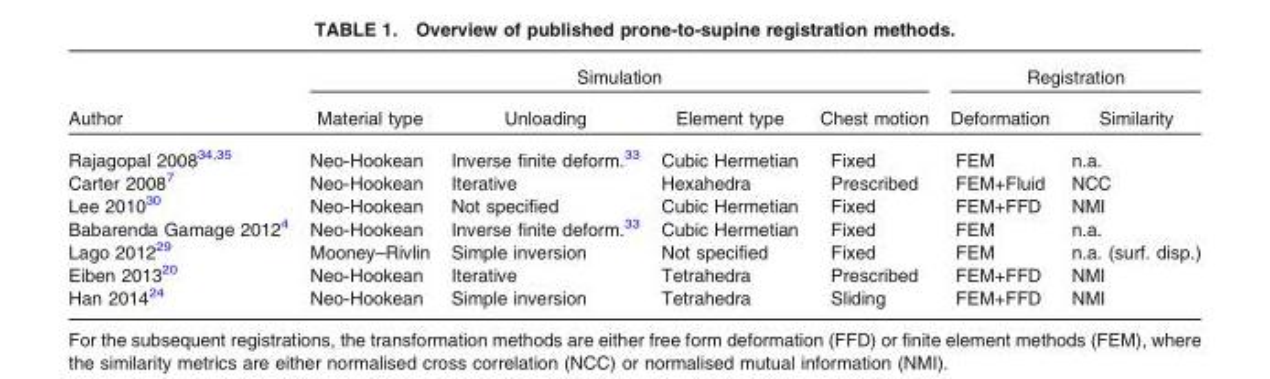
<table><thead><tr><td rowspan="2">Author</td><td colspan="4">Simulation</td><td colspan="2">Registration</td></tr><tr><td>Material type</td><td>Unloading</td><td>Element type</td><td>Chest motion</td><td>Deformation</td><td>Similarity</td></tr></thead><tbody><tr><td>Rajagopal 2008<sup>34</sup>,<sup>35</sup></td><td>Neo-Hookean</td><td>Inverse finite deform.<sup>33</sup></td><td>Cubic Hermetian</td><td>Fixed</td><td>FEM</td><td>n.a.</td></tr><tr><td>Carter 2008<sup>7</sup></td><td>Neo-Hookean</td><td>Iterative</td><td>Hexahedra</td><td>Prescribed</td><td>FEM+Fluid</td><td>NCC</td></tr><tr><td>Lee 2010<sup>30</sup></td><td>Neo-Hookean</td><td>Not specified</td><td>Cubic Hermetian</td><td>Fixed</td><td>FEM+FFD</td><td>NMI</td></tr><tr><td>Babarenda Gamage 2012<sup>4</sup></td><td>Neo-Hookean</td><td>Inverse finite deform.<sup>33</sup></td><td>Cubic Hermetian</td><td>Fixed</td><td>FEM</td><td>n.a.</td></tr><tr><td>Lago 2012<sup>29</sup></td><td>Mooney–Rivlin</td><td>Simple inversion</td><td>Not specified</td><td>Fixed</td><td>FEM</td><td>n.a. (surf. disp.)</td></tr><tr><td>Eiben 2013<sup>20</sup></td><td>Neo-Hookean</td><td>Iterative</td><td>Tetrahedra</td><td>Prescribed</td><td>FEM+FFD</td><td>NMI</td></tr><tr><td>Han 2014<sup>24</sup></td><td>Neo-Hookean</td><td>Simple inversion</td><td>Tetrahedra</td><td>Sliding</td><td>FEM+FFD</td><td>NMI</td></tr></tbody></table>